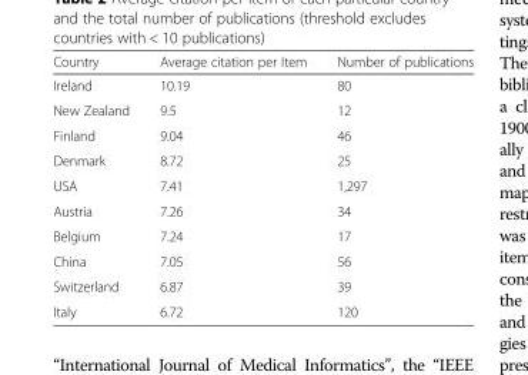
<table><thead><tr><td>Country</td><td>Average citation per Item</td><td>Number of publications</td></tr></thead><tbody><tr><td>Ireland</td><td>10.19</td><td>80</td></tr><tr><td>New Zealand</td><td>9.5</td><td>12</td></tr><tr><td>Finland</td><td>9.04</td><td>46</td></tr><tr><td>Denmark</td><td>8.72</td><td>25</td></tr><tr><td>USA</td><td>7.41</td><td>1,297</td></tr><tr><td>Austria</td><td>7.26</td><td>34</td></tr><tr><td>Belgium</td><td>7.24</td><td>17</td></tr><tr><td>China</td><td>7.05</td><td>56</td></tr><tr><td>Switzerland</td><td>6.87</td><td>39</td></tr><tr><td>Italy</td><td>6.72</td><td>120</td></tr></tbody></table>